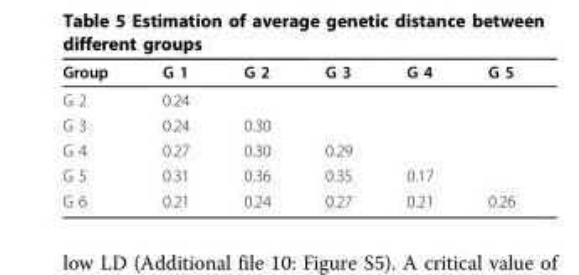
<table><thead><tr><td>Group</td><td>G 1</td><td>G 2</td><td>G 3</td><td>G 4</td><td>G 5</td></tr></thead><tbody><tr><td>G 2</td><td>0.24</td><td></td><td></td><td></td><td></td></tr><tr><td>G 3</td><td>0.24</td><td>0.30</td><td></td><td></td><td></td></tr><tr><td>G 4</td><td>0.27</td><td>0.30</td><td>0.29</td><td></td><td></td></tr><tr><td>G 5</td><td>0.31</td><td>0.36</td><td>0.35</td><td>0.17</td><td></td></tr><tr><td>G 6</td><td>0.21</td><td>0.24</td><td>0.27</td><td>0.21</td><td>0.26</td></tr></tbody></table>